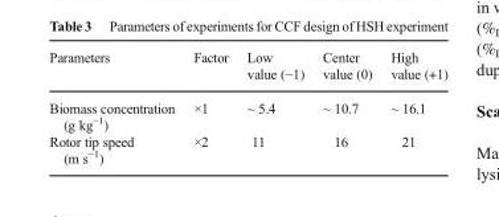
<table><thead><tr><td>Parameters</td><td>Factor</td><td>Low value (−1)</td><td>Center value (0)</td><td>High value (+1)</td></tr></thead><tbody><tr><td>Biomass concentration (g kg<sup>−1</sup>)</td><td>×1</td><td>~ 5.4</td><td>~ 10.7</td><td>~ 16.1</td></tr><tr><td>Rotor tip speed (m s<sup>−1</sup>)</td><td>×2</td><td>11</td><td>16</td><td>21</td></tr></tbody></table>